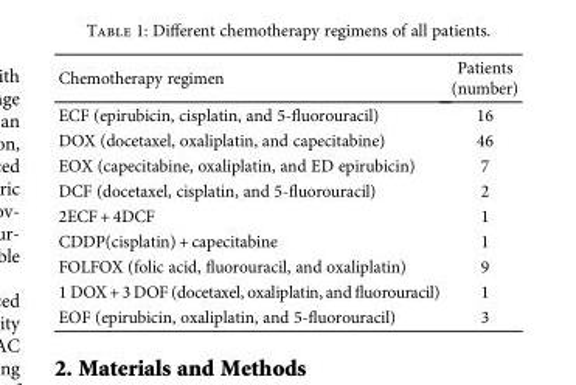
<table><thead><tr><td>Chemotherapy regimen</td><td>Patients (number)</td></tr></thead><tbody><tr><td>ECF (epirubicin, cisplatin, and 5-fluorouracil)</td><td>16</td></tr><tr><td>DOX (docetaxel, oxaliplatin, and capecitabine)</td><td>46</td></tr><tr><td>EOX (capecitabine, oxaliplatin, and ED epirubicin)</td><td>7</td></tr><tr><td>DCF (docetaxel, cisplatin, and 5-fluorouracil)</td><td>2</td></tr><tr><td>2ECF + 4DCF</td><td>1</td></tr><tr><td>CDDP(cisplatin) + capecitabine</td><td>1</td></tr><tr><td>FOLFOX (folic acid, fluorouracil, and oxaliplatin)</td><td>9</td></tr><tr><td>1 DOX + 3 DOF (docetaxel, oxaliplatin, and fluorouracil)</td><td>1</td></tr><tr><td>EOF (epirubicin, oxaliplatin, and 5-fluorouracil)</td><td>3</td></tr></tbody></table>